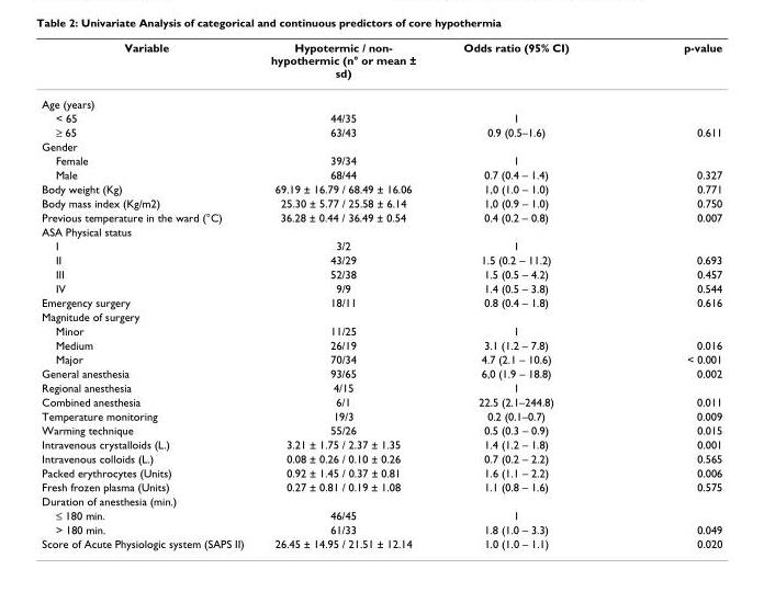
<table><thead><tr><td>Variable</td><td>Hypotermic / non- hypothermic (n° or mean ± sd)</td><td>Odds ratio (95% CI)</td><td>p-value</td></tr></thead><tbody><tr><td colspan="4">Age (years)</td></tr><tr><td>&lt; 65</td><td>44/35</td><td>1</td><td></td></tr><tr><td>≥ 65</td><td>63/43</td><td>0.9 (0.5–1.6)</td><td>0.611</td></tr><tr><td colspan="4">Gender</td></tr><tr><td>Female</td><td>39/34</td><td>1</td><td></td></tr><tr><td>Male</td><td>68/44</td><td>0.7 (0.4 – 1.4)</td><td>0.327</td></tr><tr><td>Body weight (Kg)</td><td>69.19 ± 16.79 / 68.49 ± 16.06</td><td>1,0 (1.0 – 1.0)</td><td>0.771</td></tr><tr><td>Body mass index (Kg/m2)</td><td>25.30 ± 5.77 / 25.58 ± 6.14</td><td>1,0 (0.9 – 1.0)</td><td>0.750</td></tr><tr><td>Previous temperature in the ward (°C)</td><td>36.28 ± 0.44 / 36.49 ± 0.54</td><td>0.4 (0.2 – 0.8)</td><td>0.007</td></tr><tr><td colspan="4">ASA Physical status</td></tr><tr><td>I</td><td>3/2</td><td>1</td><td></td></tr><tr><td>II</td><td>43/29</td><td>1.5 (0.2 – 11.2)</td><td>0.693</td></tr><tr><td>III</td><td>52/38</td><td>1.5 (0.5 – 4.2)</td><td>0.457</td></tr><tr><td>IV</td><td>9/9</td><td>1.4 (0.5 – 3.8)</td><td>0.544</td></tr><tr><td>Emergency surgery</td><td>18/11</td><td>0.8 (0.4 – 1.8)</td><td>0.616</td></tr><tr><td colspan="4">Magnitude of surgery</td></tr><tr><td>Minor</td><td>11/25</td><td>1</td><td></td></tr><tr><td>Medium</td><td>26/19</td><td>3.1 (1.2 – 7.8)</td><td>0.016</td></tr><tr><td>Major</td><td>70/34</td><td>4.7 (2.1 – 10.6)</td><td>&lt; 0.001</td></tr><tr><td>General anesthesia</td><td>93/65</td><td>6,0 (1.9 – 18.8)</td><td>0.002</td></tr><tr><td>Regional anesthesia</td><td>4/15</td><td>1</td><td></td></tr><tr><td>Combined anesthesia</td><td>6/1</td><td>22.5 (2.1–244.8)</td><td>0.011</td></tr><tr><td>Temperature monitoring</td><td>19/3</td><td>0.2 (0.1–0.7)</td><td>0.009</td></tr><tr><td>Warming technique</td><td>55/26</td><td>0.5 (0.3 – 0.9)</td><td>0.015</td></tr><tr><td>Intravenous crystalloids (L.)</td><td>3.21 ± 1.75 / 2.37 ± 1.35</td><td>1.4 (1.2 – 1.8)</td><td>0.001</td></tr><tr><td>Intravenous colloids (L.)</td><td>0.08 ± 0.26 / 0.10 ± 0.26</td><td>0.7 (0.2 – 2.2)</td><td>0.565</td></tr><tr><td>Packed erythrocytes (Units)</td><td>0.92 ± 1.45 / 0.37 ± 0.81</td><td>1.6 (1.1 – 2.2)</td><td>0.006</td></tr><tr><td>Fresh frozen plasma (Units)</td><td>0.27 ± 0.81 / 0.19 ± 1.08</td><td>1.1 (0.8 – 1.6)</td><td>0.575</td></tr><tr><td colspan="4">Duration of anesthesia (min.)</td></tr><tr><td>≤ 180 min.</td><td>46/45</td><td>1</td><td></td></tr><tr><td>&gt; 180 min.</td><td>61/33</td><td>1.8 (1.0 – 3.3)</td><td>0.049</td></tr><tr><td>Score of Acute Physiologic system (SAPS II)</td><td>26.45 ± 14.95 / 21.51 ± 12.14</td><td>1.0 (1.0 – 1.1)</td><td>0.020</td></tr></tbody></table>